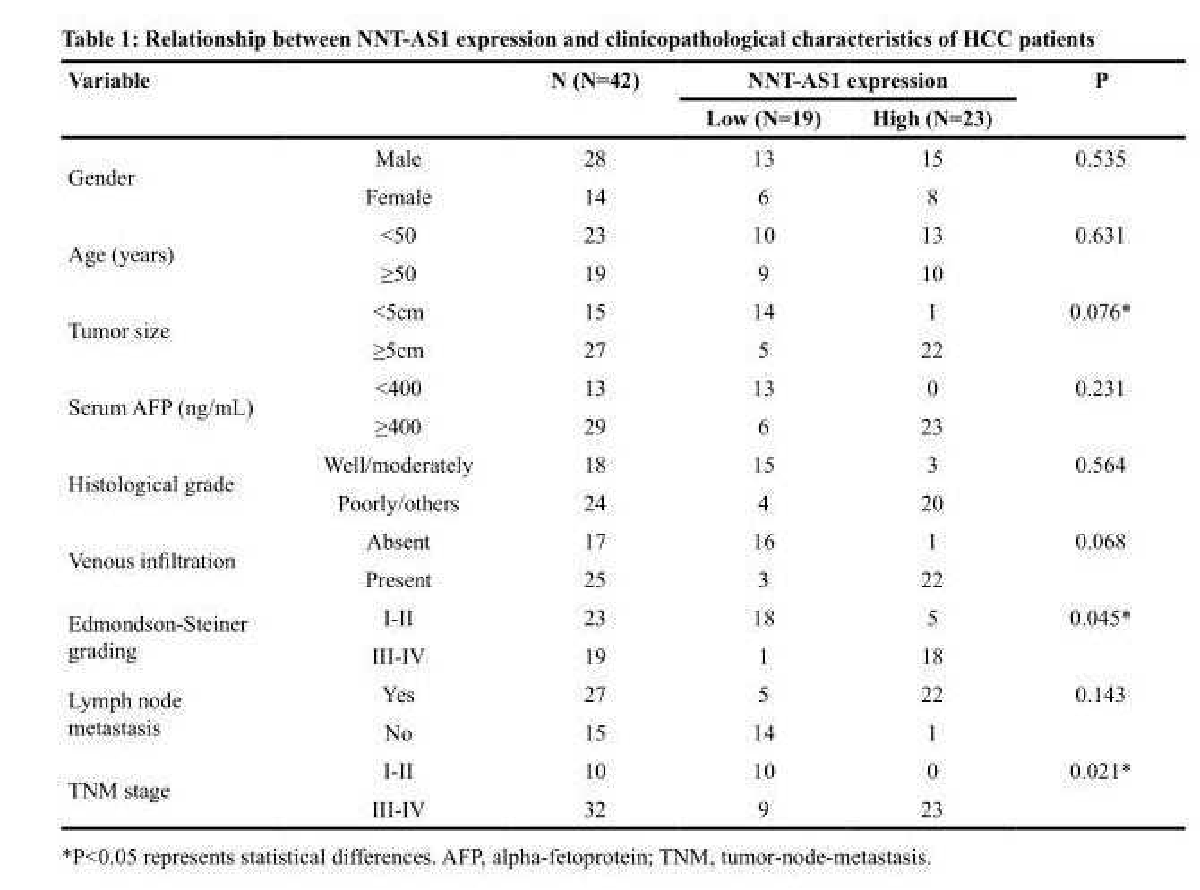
<table><thead><tr><td rowspan="2">Variable</td><td rowspan="2"></td><td rowspan="2">N (N=42)</td><td colspan="2">NNT-AS1 expression</td><td rowspan="2">P</td></tr><tr><td>Low (N=19)</td><td>High (N=23)</td></tr></thead><tbody><tr><td rowspan="2">Gender</td><td>Male</td><td>28</td><td>13</td><td>15</td><td>0.535</td></tr><tr><td>Female</td><td>14</td><td>6</td><td>8</td><td></td></tr><tr><td rowspan="2">Age (years)</td><td>&lt;50</td><td>23</td><td>10</td><td>13</td><td>0.631</td></tr><tr><td>≥50</td><td>19</td><td>9</td><td>10</td><td></td></tr><tr><td rowspan="2">Tumor size</td><td>&lt;5cm</td><td>15</td><td>14</td><td>1</td><td>0.076*</td></tr><tr><td>≥5cm</td><td>27</td><td>5</td><td>22</td><td></td></tr><tr><td rowspan="2">Serum AFP (ng/mL)</td><td>&lt;400</td><td>13</td><td>13</td><td>0</td><td>0.231</td></tr><tr><td>≥400</td><td>29</td><td>6</td><td>23</td><td></td></tr><tr><td rowspan="2">Histological grade</td><td>Well/moderately</td><td>18</td><td>15</td><td>3</td><td>0.564</td></tr><tr><td>Poorly/others</td><td>24</td><td>4</td><td>20</td><td></td></tr><tr><td rowspan="2">Venous infiltration</td><td>Absent</td><td>17</td><td>16</td><td>1</td><td>0.068</td></tr><tr><td>Present</td><td>25</td><td>3</td><td>22</td><td></td></tr><tr><td rowspan="2">Edmondson-Steiner grading</td><td>I-II</td><td>23</td><td>18</td><td>5</td><td>0.045*</td></tr><tr><td>III-IV</td><td>19</td><td>1</td><td>18</td><td></td></tr><tr><td rowspan="2">Lymph node metastasis</td><td>Yes</td><td>27</td><td>5</td><td>22</td><td>0.143</td></tr><tr><td>No</td><td>15</td><td>14</td><td>1</td><td></td></tr><tr><td rowspan="2">TNM stage</td><td>I-II</td><td>10</td><td>10</td><td>0</td><td>0.021*</td></tr><tr><td>III-IV</td><td>32</td><td>9</td><td>23</td><td></td></tr></tbody></table>